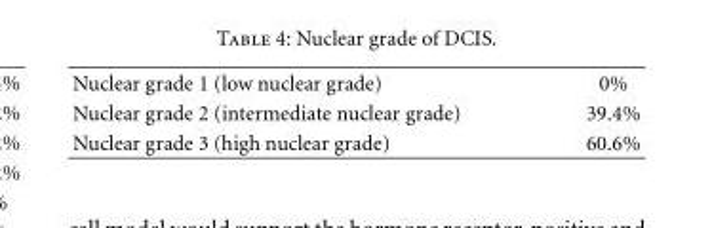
<table><tbody><tr><td>Nuclear grade 1 (low nuclear grade)</td><td>0%</td></tr><tr><td>Nuclear grade 2 (intermediate nuclear grade)</td><td>39.4%</td></tr><tr><td>Nuclear grade 3 (high nuclear grade)</td><td>60.6%</td></tr></tbody></table>